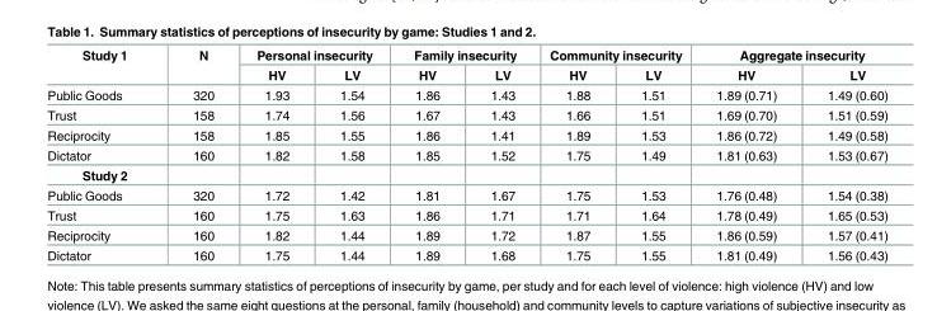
<table><tbody><tr><td rowspan="2">Study 1</td><td rowspan="2">N</td><td colspan="2">Personal insecurity</td><td colspan="2">Family insecurity</td><td colspan="2">Community insecurity</td><td colspan="2">Aggregate insecurity</td></tr><tr><td>HV</td><td>LV</td><td>HV</td><td>LV</td><td>HV</td><td>LV</td><td>HV</td><td>LV</td></tr><tr><td>Public Goods</td><td>320</td><td>1.93</td><td>1.54</td><td>1.86</td><td>1.43</td><td>1.88</td><td>1.51</td><td>1.89 (0.71)</td><td>1.49 (0.60)</td></tr><tr><td>Trust</td><td>158</td><td>1.74</td><td>1.56</td><td>1.67</td><td>1.43</td><td>1.66</td><td>1.51</td><td>1.69 (0.70)</td><td>1.51 (0.59)</td></tr><tr><td>Reciprocity</td><td>158</td><td>1.85</td><td>1.55</td><td>1.86</td><td>1.41</td><td>1.89</td><td>1.53</td><td>1.86 (0.72)</td><td>1.49 (0.58)</td></tr><tr><td>Dictator</td><td>160</td><td>1.82</td><td>1.58</td><td>1.85</td><td>1.52</td><td>1.75</td><td>1.49</td><td>1.81 (0.63)</td><td>1.53 (0.67)</td></tr><tr><td colspan="10">Study 2</td></tr><tr><td>Public Goods</td><td>320</td><td>1.72</td><td>1.42</td><td>1.81</td><td>1.67</td><td>1.75</td><td>1.53</td><td>1.76 (0.48)</td><td>1.54 (0.38)</td></tr><tr><td>Trust</td><td>160</td><td>1.75</td><td>1.63</td><td>1.86</td><td>1.71</td><td>1.71</td><td>1.64</td><td>1.78 (0.49)</td><td>1.65 (0.53)</td></tr><tr><td>Reciprocity</td><td>160</td><td>1.82</td><td>1.44</td><td>1.89</td><td>1.72</td><td>1.87</td><td>1.55</td><td>1.86 (0.59)</td><td>1.57 (0.41)</td></tr><tr><td>Dictator</td><td>160</td><td>1.75</td><td>1.44</td><td>1.89</td><td>1.68</td><td>1.75</td><td>1.55</td><td>1.81 (0.49)</td><td>1.56 (0.43)</td></tr></tbody></table>